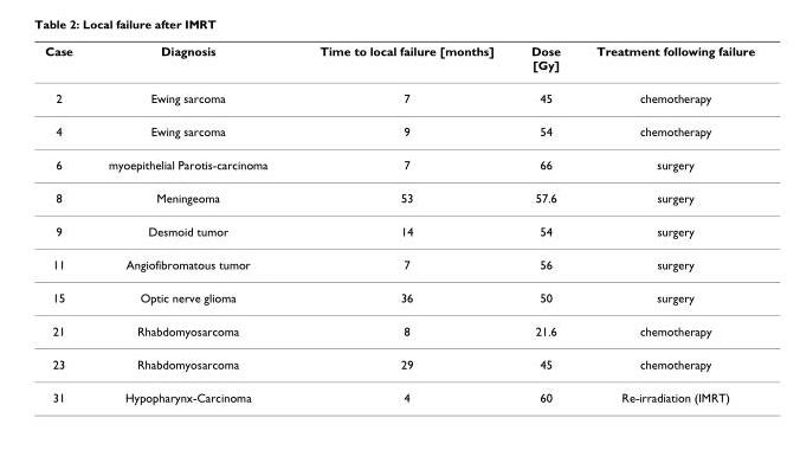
<table><thead><tr><td>Case</td><td>Diagnosis</td><td>Time to local failure [months]</td><td>Dose [Gy]</td><td>Treatment following failure</td></tr></thead><tbody><tr><td>2</td><td>Ewing sarcoma</td><td>7</td><td>45</td><td>chemotherapy</td></tr><tr><td>4</td><td>Ewing sarcoma</td><td>9</td><td>54</td><td>chemotherapy</td></tr><tr><td>6</td><td>myoepithelial Parotis-carcinoma</td><td>7</td><td>66</td><td>surgery</td></tr><tr><td>8</td><td>Meningeoma</td><td>53</td><td>57.6</td><td>surgery</td></tr><tr><td>9</td><td>Desmoid tumor</td><td>14</td><td>54</td><td>surgery</td></tr><tr><td>11</td><td>Angiofibromatous tumor</td><td>7</td><td>56</td><td>surgery</td></tr><tr><td>15</td><td>Optic nerve glioma</td><td>36</td><td>50</td><td>surgery</td></tr><tr><td>21</td><td>Rhabdomyosarcoma</td><td>8</td><td>21.6</td><td>chemotherapy</td></tr><tr><td>23</td><td>Rhabdomyosarcoma</td><td>29</td><td>45</td><td>chemotherapy</td></tr><tr><td>31</td><td>Hypopharynx-Carcinoma</td><td>4</td><td>60</td><td>Re-irradiation (IMRT)</td></tr></tbody></table>